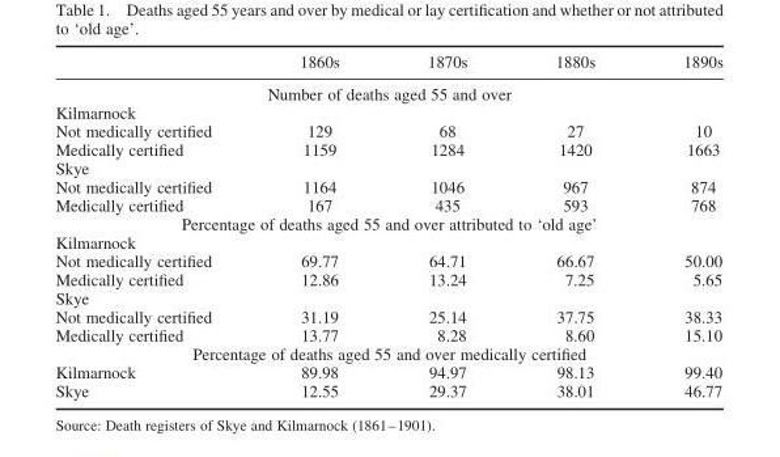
<table><thead><tr><td></td><td>1860s</td><td>1870s</td><td>1880s</td><td>1890s</td></tr></thead><tbody><tr><td colspan="5">Number of deaths aged 55 and over</td></tr><tr><td colspan="5">Kilmarnock</td></tr><tr><td>Not medically certified</td><td>129</td><td>68</td><td>27</td><td>10</td></tr><tr><td>Medically certified</td><td>1159</td><td>1284</td><td>1420</td><td>1663</td></tr><tr><td colspan="5">Skye</td></tr><tr><td>Not medically certified</td><td>1164</td><td>1046</td><td>967</td><td>874</td></tr><tr><td>Medically certified</td><td>167</td><td>435</td><td>593</td><td>768</td></tr><tr><td colspan="5">Percentage of deaths aged 55 and over attributed to ‘old age’</td></tr><tr><td colspan="5">Kilmarnock</td></tr><tr><td>Not medically certified</td><td>69.77</td><td>64.71</td><td>66.67</td><td>50.00</td></tr><tr><td>Medically certified</td><td>12.86</td><td>13.24</td><td>7.25</td><td>5.65</td></tr><tr><td colspan="5">Skye</td></tr><tr><td>Not medically certified</td><td>31.19</td><td>25.14</td><td>37.75</td><td>38.33</td></tr><tr><td>Medically certified</td><td>13.77</td><td>8.28</td><td>8.60</td><td>15.10</td></tr><tr><td colspan="5">Percentage of deaths aged 55 and over medically certified</td></tr><tr><td>Kilmarnock</td><td>89.98</td><td>94.97</td><td>98.13</td><td>99.40</td></tr><tr><td>Skye</td><td>12.55</td><td>29.37</td><td>38.01</td><td>46.77</td></tr></tbody></table>